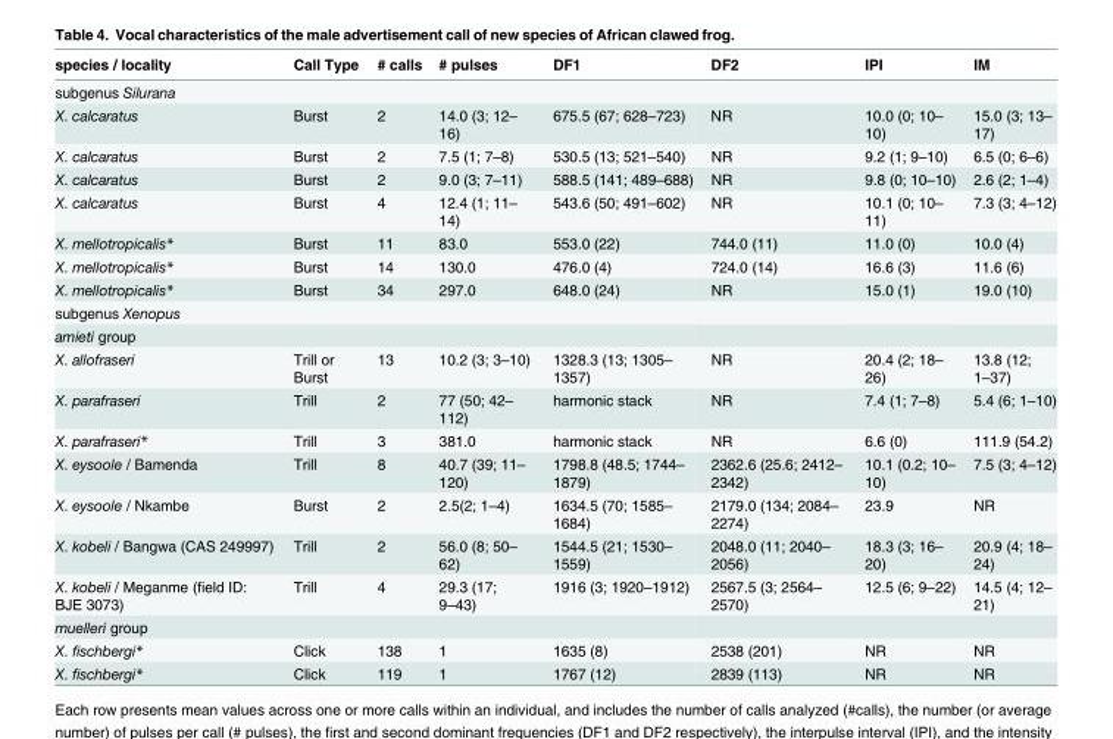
<table><thead><tr><td>species / locality</td><td>Call Type</td><td># calls</td><td># pulses</td><td>DF1</td><td>DF2</td><td>IPI</td><td>IM</td></tr></thead><tbody><tr><td colspan="8">subgenus Silurana</td></tr><tr><td>X. calcaratus</td><td>Burst</td><td>2</td><td>14.0 (3; 12– 16)</td><td>675.5 (67; 628–723)</td><td>NR</td><td>10.0 (0; 10– 10)</td><td>15.0 (3; 13– 17)</td></tr><tr><td>X. calcaratus</td><td>Burst</td><td>2</td><td>7.5 (1; 7–8)</td><td>530.5 (13; 521–540)</td><td>NR</td><td>9.2 (1; 9–10)</td><td>6.5 (0; 6–6)</td></tr><tr><td>X. calcaratus</td><td>Burst</td><td>2</td><td>9.0 (3; 7–11)</td><td>588.5 (141; 489–688)</td><td>NR</td><td>9.8 (0; 10–10)</td><td>2.6 (2; 1–4)</td></tr><tr><td>X. calcaratus</td><td>Burst</td><td>4</td><td>12.4 (1; 11– 14)</td><td>543.6 (50; 491–602)</td><td>NR</td><td>10.1 (0; 10– 11)</td><td>7.3 (3; 4–12)</td></tr><tr><td>X. mellotropicalis*</td><td>Burst</td><td>11</td><td>83.0</td><td>553.0 (22)</td><td>744.0 (11)</td><td>11.0 (0)</td><td>10.0 (4)</td></tr><tr><td>X. mellotropicalis*</td><td>Burst</td><td>14</td><td>130.0</td><td>476.0 (4)</td><td>724.0 (14)</td><td>16.6 (3)</td><td>11.6 (6)</td></tr><tr><td>X. mellotropicalis*</td><td>Burst</td><td>34</td><td>297.0</td><td>648.0 (24)</td><td>NR</td><td>15.0 (1)</td><td>19.0 (10)</td></tr><tr><td colspan="8">subgenus Xenopus</td></tr><tr><td colspan="8">amieti group</td></tr><tr><td>X. allofraseri</td><td>Trill or Burst</td><td>13</td><td>10.2 (3; 3–10)</td><td>1328.3 (13; 1305– 1357)</td><td>NR</td><td>20.4 (2; 18– 26)</td><td>13.8 (12; 1–37)</td></tr><tr><td>X. parafraseri</td><td>Trill</td><td>2</td><td>77 (50; 42– 112)</td><td>harmonic stack</td><td>NR</td><td>7.4 (1; 7–8)</td><td>5.4 (6; 1–10)</td></tr><tr><td>X. parafraseri*</td><td>Trill</td><td>3</td><td>381.0</td><td>harmonic stack</td><td>NR</td><td>6.6 (0)</td><td>111.9 (54.2)</td></tr><tr><td>X. eysoole / Bamenda</td><td>Trill</td><td>8</td><td>40.7 (39; 11– 120)</td><td>1798.8 (48.5; 1744– 1879)</td><td>2362.6 (25.6; 2412– 2342)</td><td>10.1 (0.2; 10– 10)</td><td>7.5 (3; 4–12)</td></tr><tr><td>X. eysoole / Nkambe</td><td>Burst</td><td>2</td><td>2.5(2; 1–4)</td><td>1634.5 (70; 1585– 1684)</td><td>2179.0 (134; 2084– 2274)</td><td>23.9</td><td>NR</td></tr><tr><td>X. kobeli / Bangwa (CAS 249997)</td><td>Trill</td><td>2</td><td>56.0 (8; 50– 62)</td><td>1544.5 (21; 1530– 1559)</td><td>2048.0 (11; 2040– 2056)</td><td>18.3 (3; 16– 20)</td><td>20.9 (4; 18– 24)</td></tr><tr><td>X. kobeli / Meganme (field ID: BJE 3073)</td><td>Trill</td><td>4</td><td>29.3 (17; 9–43)</td><td>1916 (3; 1920–1912)</td><td>2567.5 (3; 2564– 2570)</td><td>12.5 (6; 9–22)</td><td>14.5 (4; 12– 21)</td></tr><tr><td colspan="8">muelleri group</td></tr><tr><td>X. fischbergi*</td><td>Click</td><td>138</td><td>1</td><td>1635 (8)</td><td>2538 (201)</td><td>NR</td><td>NR</td></tr><tr><td>X. fischbergi*</td><td>Click</td><td>119</td><td>1</td><td>1767 (12)</td><td>2839 (113)</td><td>NR</td><td>NR</td></tr></tbody></table>